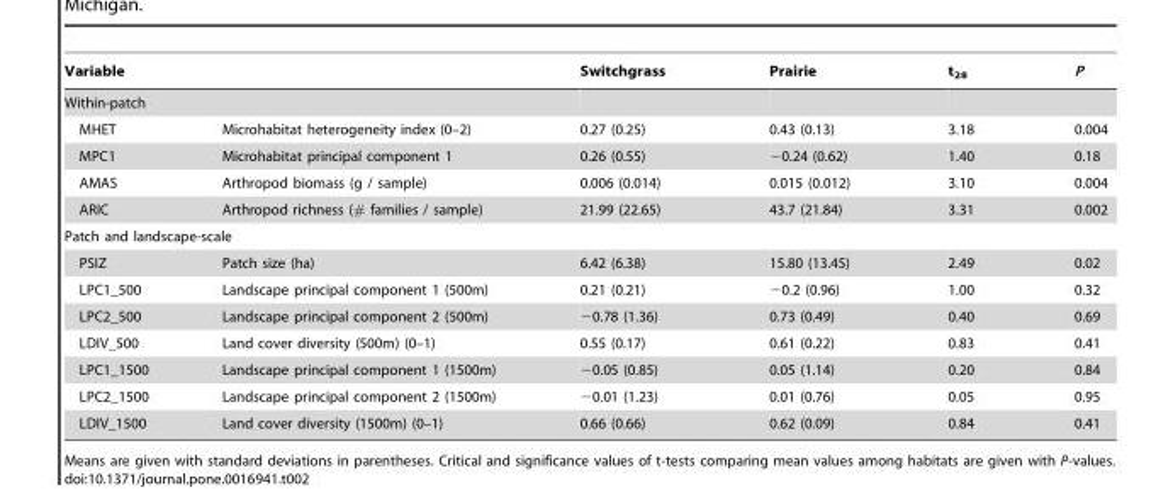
<table><thead><tr><td>Variable</td><td></td><td>Switchgrass</td><td>Prairie</td><td>t<sub>28</sub></td><td>P</td></tr></thead><tbody><tr><td colspan="6">Within-patch</td></tr><tr><td>MHET</td><td>Microhabitat heterogeneity index (0–2)</td><td>0.27 (0.25)</td><td>0.43 (0.13)</td><td>3.18</td><td>0.004</td></tr><tr><td>MPC1</td><td>Microhabitat principal component 1</td><td>0.26 (0.55)</td><td>−0.24 (0.62)</td><td>1.40</td><td>0.18</td></tr><tr><td>AMAS</td><td>Arthropod biomass (g / sample)</td><td>0.006 (0.014)</td><td>0.015 (0.012)</td><td>3.10</td><td>0.004</td></tr><tr><td>ARIC</td><td>Arthropod richness (# families / sample)</td><td>21.99 (22.65)</td><td>43.7 (21.84)</td><td>3.31</td><td>0.002</td></tr><tr><td colspan="6">Patch and landscape-scale</td></tr><tr><td>PSIZ</td><td>Patch size (ha)</td><td>6.42 (6.38)</td><td>15.80 (13.45)</td><td>2.49</td><td>0.02</td></tr><tr><td>LPC1_500</td><td>Landscape principal component 1 (500m)</td><td>0.21 (0.21)</td><td>−0.2 (0.96)</td><td>1.00</td><td>0.32</td></tr><tr><td>LPC2_500</td><td>Landscape principal component 2 (500m)</td><td>−0.78 (1.36)</td><td>0.73 (0.49)</td><td>0.40</td><td>0.69</td></tr><tr><td>LDIV_500</td><td>Land cover diversity (500m) (0–1)</td><td>0.55 (0.17)</td><td>0.61 (0.22)</td><td>0.83</td><td>0.41</td></tr><tr><td>LPC1_1500</td><td>Landscape principal component 1 (1500m)</td><td>−0.05 (0.85)</td><td>0.05 (1.14)</td><td>0.20</td><td>0.84</td></tr><tr><td>LPC2_1500</td><td>Landscape principal component 2 (1500m)</td><td>−0.01 (1.23)</td><td>0.01 (0.76)</td><td>0.05</td><td>0.95</td></tr><tr><td>LDIV_1500</td><td>Land cover diversity (1500m) (0–1)</td><td>0.66 (0.66)</td><td>0.62 (0.09)</td><td>0.84</td><td>0.41</td></tr></tbody></table>